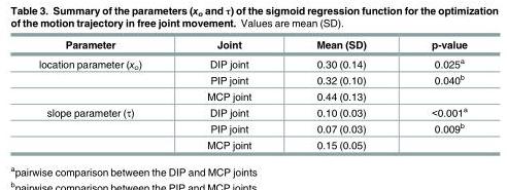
<table><thead><tr><td>Parameter</td><td>Joint</td><td>Mean (SD)</td><td>p-value</td></tr></thead><tbody><tr><td rowspan="3">location parameter (x<sub>o</sub>)</td><td>DIP joint</td><td>0.30 (0.14)</td><td>0.025<sup>a</sup></td></tr><tr><td>PIP joint</td><td>0.32 (0.10)</td><td>0.040<sup>b</sup></td></tr><tr><td>MCP joint</td><td>0.44 (0.13)</td><td></td></tr><tr><td rowspan="3">slope parameter (τ)</td><td>DIP joint</td><td>0.10 (0.03)</td><td>&lt;0.001<sup>a</sup></td></tr><tr><td>PIP joint</td><td>0.07 (0.03)</td><td>0.009<sup>b</sup></td></tr><tr><td>MCP joint</td><td>0.15 (0.05)</td><td></td></tr></tbody></table>